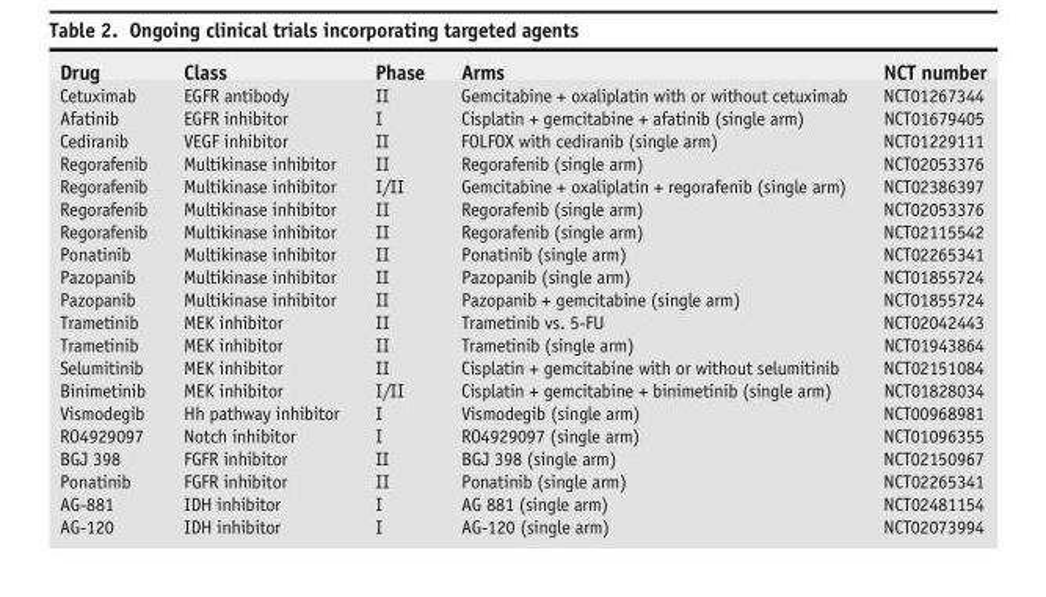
<table><thead><tr><td>Drug</td><td>Class</td><td>Phase</td><td>Arms</td><td>NCT number</td></tr></thead><tbody><tr><td>Cetuximab</td><td>EGFR antibody</td><td>II</td><td>Gemcitabine + oxaliplatin with or without cetuximab</td><td>NCT01267344</td></tr><tr><td>Afatinib</td><td>EGFR inhibitor</td><td>I</td><td>Cisplatin + gemcitabine + afatinib (single arm)</td><td>NCT01679405</td></tr><tr><td>Cediranib</td><td>VEGF inhibitor</td><td>II</td><td>FOLFOX with cediranib (single arm)</td><td>NCT01229111</td></tr><tr><td>Regorafenib</td><td>Multikinase inhibitor</td><td>II</td><td>Regorafenib (single arm)</td><td>NCT02053376</td></tr><tr><td>Regorafenib</td><td>Multikinase inhibitor</td><td>I/II</td><td>Gemcitabine + oxaliplatin + regorafenib (single arm)</td><td>NCT02386397</td></tr><tr><td>Regorafenib</td><td>Multikinase inhibitor</td><td>II</td><td>Regorafenib (single arm)</td><td>NCT02053376</td></tr><tr><td>Regorafenib</td><td>Multikinase inhibitor</td><td>II</td><td>Regorafenib (single arm)</td><td>NCT02115542</td></tr><tr><td>Ponatinib</td><td>Multikinase inhibitor</td><td>II</td><td>Ponatinib (single arm)</td><td>NCT02265341</td></tr><tr><td>Pazopanib</td><td>Multikinase inhibitor</td><td>II</td><td>Pazopanib (single arm)</td><td>NCT01855724</td></tr><tr><td>Pazopanib</td><td>Multikinase inhibitor</td><td>II</td><td>Pazopanib + gemcitabine (single arm)</td><td>NCT01855724</td></tr><tr><td>Trametinib</td><td>MEK inhibitor</td><td>II</td><td>Trametinib vs. 5-FU</td><td>NCT02042443</td></tr><tr><td>Trametinib</td><td>MEK inhibitor</td><td>II</td><td>Trametinib (single arm)</td><td>NCT01943864</td></tr><tr><td>Selumitinib</td><td>MEK inhibitor</td><td>II</td><td>Cisplatin + gemcitabine with or without selumitinib</td><td>NCT02151084</td></tr><tr><td>Binimetinib</td><td>MEK inhibitor</td><td>I/II</td><td>Cisplatin + gemcitabine + binimetinib (single arm)</td><td>NCT01828034</td></tr><tr><td>Vismodegib</td><td>Hh pathway inhibitor</td><td>I</td><td>Vismodegib (single arm)</td><td>NCT00968981</td></tr><tr><td>RO4929097</td><td>Notch inhibitor</td><td>I</td><td>RO4929097 (single arm)</td><td>NCT01096355</td></tr><tr><td>BGJ 398</td><td>FGFR inhibitor</td><td>II</td><td>BGJ 398 (single arm)</td><td>NCT02150967</td></tr><tr><td>Ponatinib</td><td>FGFR inhibitor</td><td>II</td><td>Ponatinib (single arm)</td><td>NCT02265341</td></tr><tr><td>AG-881</td><td>IDH inhibitor</td><td>I</td><td>AG 881 (single arm)</td><td>NCT02481154</td></tr><tr><td>AG-120</td><td>IDH inhibitor</td><td>I</td><td>AG-120 (single arm)</td><td>NCT02073994</td></tr></tbody></table>